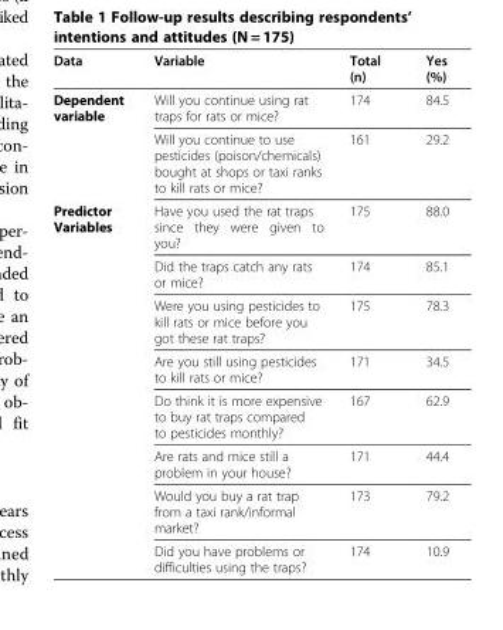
<table><thead><tr><td>Data</td><td>Variable</td><td>Total (n)</td><td>Yes (%)</td></tr></thead><tbody><tr><td rowspan="2">Dependent variable</td><td>Will you continue using rat traps for rats or mice?</td><td>174</td><td>84.5</td></tr><tr><td>Will you continue to use pesticides (poison/chemicals) bought at shops or taxi ranks to kill rats or mice?</td><td>161</td><td>29.2</td></tr><tr><td rowspan="8">Predictor Variables</td><td>Have you used the rat traps since they were given to you?</td><td>175</td><td>88.0</td></tr><tr><td>Did the traps catch any rats or mice?</td><td>174</td><td>85.1</td></tr><tr><td>Were you using pesticides to kill rats or mice before you got these rat traps?</td><td>175</td><td>78.3</td></tr><tr><td>Are you still using pesticides to kill rats or mice?</td><td>171</td><td>34.5</td></tr><tr><td>Do think it is more expensive to buy rat traps compared to pesticides monthly?</td><td>167</td><td>62.9</td></tr><tr><td>Are rats and mice still a problem in your house?</td><td>171</td><td>44.4</td></tr><tr><td>Would you buy a rat trap from a taxi rank/informal market?</td><td>173</td><td>79.2</td></tr><tr><td>Did you have problems or difficulties using the traps?</td><td>174</td><td>10.9</td></tr></tbody></table>